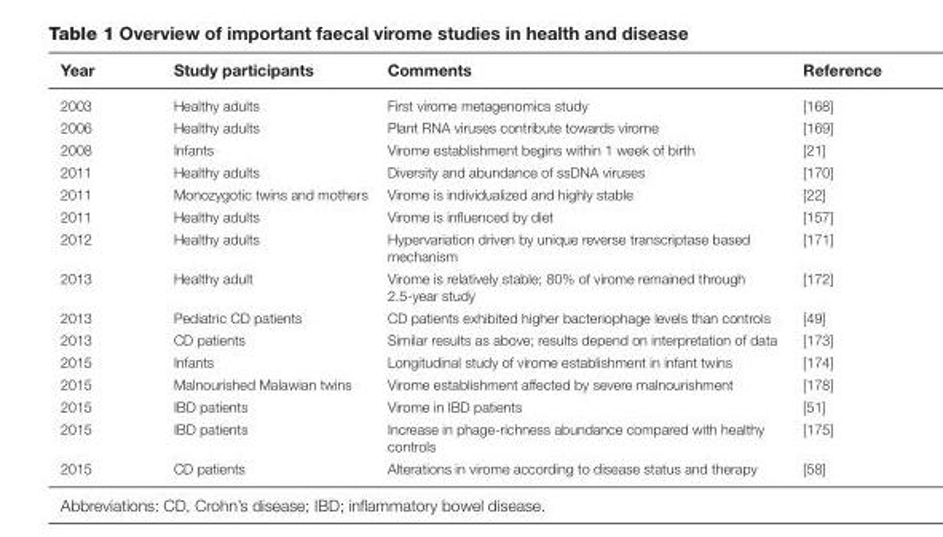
<table><thead><tr><td>Year</td><td>Study participants</td><td>Comments</td><td>Reference</td></tr></thead><tbody><tr><td>2003</td><td>Healthy adults</td><td>First virome metagenomics study</td><td>[168]</td></tr><tr><td>2006</td><td>Healthy adults</td><td>Plant RNA viruses contribute towards virome</td><td>[169]</td></tr><tr><td>2008</td><td>Infants</td><td>Virome establishment begins within 1 week of birth</td><td>[21]</td></tr><tr><td>2011</td><td>Healthy adults</td><td>Diversity and abundance of ssDNA viruses</td><td>[170]</td></tr><tr><td>2011</td><td>Monozygotic twins and mothers</td><td>Virome is individualized and highly stable</td><td>[22]</td></tr><tr><td>2011</td><td>Healthy adults</td><td>Virome is influenced by diet</td><td>[157]</td></tr><tr><td>2012</td><td>Healthy adults</td><td>Hypervariation driven by unique reverse transcriptase based mechanism</td><td>[171]</td></tr><tr><td>2013</td><td>Healthy adult</td><td>Virome is relatively stable; 80% of virome remained through 2.5-year study</td><td>[172]</td></tr><tr><td>2013</td><td>Pediatric CD patients</td><td>CD patients exhibited higher bacteriophage levels than controls</td><td>[49]</td></tr><tr><td>2013</td><td>CD patients</td><td>Similar results as above; results depend on interpretation of data</td><td>[173]</td></tr><tr><td>2015</td><td>Infants</td><td>Longitudinal study of virome establishment in infant twins</td><td>[174]</td></tr><tr><td>2015</td><td>Malnourished Malawian twins</td><td>Virome establishment affected by severe malnourishment</td><td>[178]</td></tr><tr><td>2015</td><td>IBD patients</td><td>Virome in IBD patients</td><td>[51]</td></tr><tr><td>2015</td><td>IBD patients</td><td>Increase in phage-richness abundance compared with healthy controls</td><td>[175]</td></tr><tr><td>2015</td><td>CD patients</td><td>Alterations in virome according to disease status and therapy</td><td>[58]</td></tr></tbody></table>